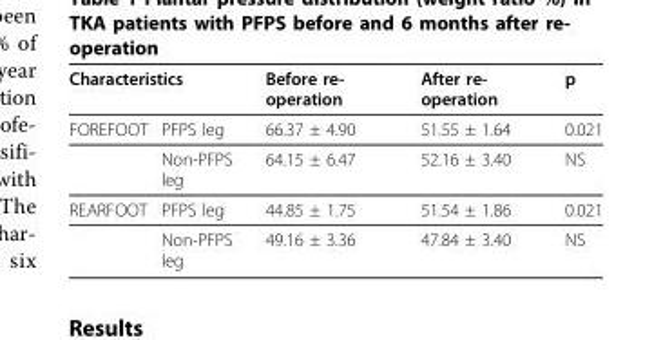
<table><thead><tr><td colspan="2">Characteristics</td><td rowspan="2">Before re- operation 66.37 ± 4.90</td><td rowspan="2">After re- operation 51.55 ± 1.64</td><td rowspan="2">p 0.021</td></tr><tr><td>FOREFOOT</td><td>PFPS leg</td></tr></thead><tbody><tr><td></td><td>Non-PFPS leg</td><td>64.15 ± 6.47</td><td>52.16 ± 3.40</td><td>NS</td></tr><tr><td rowspan="2">REARFOOT</td><td>PFPS leg</td><td>44.85 ± 1.75</td><td>51.54 ± 1.86</td><td>0.021</td></tr><tr><td>Non-PFPS leg</td><td>49.16 ± 3.36</td><td>47.84 ± 3.40</td><td>NS</td></tr></tbody></table>